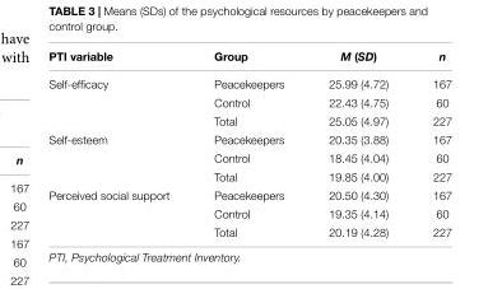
<table><thead><tr><td>PTI variable</td><td>Group</td><td>M (SD)</td><td>n</td></tr></thead><tbody><tr><td rowspan="3">Self-efficacy</td><td>Peacekeepers</td><td>25.99 (4.72)</td><td>167</td></tr><tr><td>Control</td><td>22.43 (4.75)</td><td>60</td></tr><tr><td>Total</td><td>25.05 (4.97)</td><td>227</td></tr><tr><td rowspan="3">Self-esteem</td><td>Peacekeepers</td><td>20.35 (3.88)</td><td>167</td></tr><tr><td>Control</td><td>18.45 (4.04)</td><td>60</td></tr><tr><td>Total</td><td>19.85 (4.00)</td><td>227</td></tr><tr><td rowspan="3">Perceived social support</td><td>Peacekeepers</td><td>20.50 (4.30)</td><td>167</td></tr><tr><td>Control</td><td>19.35 (4.14)</td><td>60</td></tr><tr><td>Total</td><td>20.19 (4.28)</td><td>227</td></tr></tbody></table>